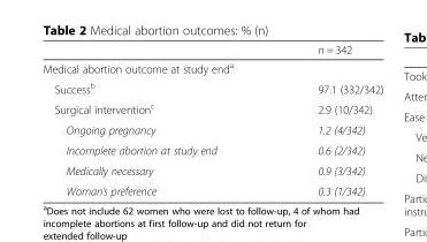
<table><thead><tr><td></td><td>n = 342</td></tr></thead><tbody><tr><td colspan="2">Medical abortion outcome at study end<sup>a</sup></td></tr><tr><td>Success<sup>b</sup></td><td>97.1 (332/342)</td></tr><tr><td>Surgical intervention<sup>c</sup></td><td>2.9 (10/342)</td></tr><tr><td>Ongoing pregnancy</td><td>1.2 (4/342)</td></tr><tr><td>Incomplete abortion at study end</td><td>0.6 (2/342)</td></tr><tr><td>Medically necessary</td><td>0.9 (3/342)</td></tr><tr><td>Woman’s preference</td><td>0.3 (1/342)</td></tr></tbody></table>